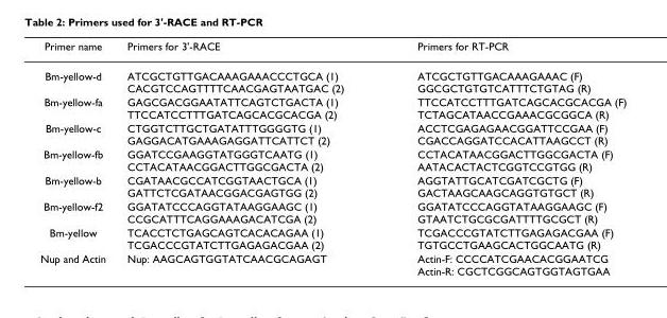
<table><thead><tr><td>Primer name</td><td>Primers for 3&#x27;-RACE</td><td>Primers for RT-PCR</td></tr></thead><tbody><tr><td>Bm-yellow-d</td><td>ATCGCTGTTGACAAAGAAACCCTGCA (1) CACGTCCAGTTTTCAACGAGTAATGAC (2)</td><td>ATCGCTGTTGACAAAGAAAC (F) GGCGCTGTGTCATTTCTGTAG (R)</td></tr><tr><td>Bm-yellow-fa</td><td>GAGCGACGGAATATTCAGTCTGACTA (1) TTCCATCCTTTGATCAGCACGCACGA (2)</td><td>TTCCATCCTTTGATCAGCACGCACGA (F) TCTAGCATAACCGAAACGCGGCA (R)</td></tr><tr><td>Bm-yellow-c</td><td>CTGGTCTTGCTGATATTTGGGGTG (1) GAGGACATGAAAGAGGATTCATTCT (2)</td><td>ACCTCGAGAGAACGGATTCCGAA (F) CGACCAGGATCCACATTAAGCCT (R)</td></tr><tr><td>Bm-yellow-fb</td><td>GGATCCGAAGGTATGGGTCAATG (1) CCTACATAACGGACTTGGCGACTA (2)</td><td>CCTACATAACGGACTTGGCGACTA (F) AATACACTACTCGGTCCGTGG (R)</td></tr><tr><td>Bm-yellow-b</td><td>CGATAACGCCATCGGTAACTGCA (1) GATTCTCGATAACGGACGAGTGG (2)</td><td>AGGTATTGCATCGATCGCTG (F) GACTAAGCAAGCAGGTGTGCT (R)</td></tr><tr><td>Bm-yellow-f2</td><td>GGATATCCCAGGTATAAGGAAGC (1) CCGCATTTCAGGAAAGACATCGA (2)</td><td>GGATATCCCAGGTATAAGGAAGC (F) GTAATCTGCGCGATTTTGCGCT (R)</td></tr><tr><td>Bm-yellow</td><td>TCACCTCTGAGCAGTCACACAGAA (1) TCGACCCGTATCTTGAGAGACGAA (2)</td><td>TCGACCCGTATCTTGAGAGACGAA (F) TGTGCCTGAAGCACTGGCAATG (R)</td></tr><tr><td>Nup and Actin</td><td>Nup: AAGCAGTGGTATCAACGCAGAGT</td><td>Actin-F: CCCCATCGAACACGGAATCG Actin-R: CGCTCGGCAGTGGTAGTGAA</td></tr></tbody></table>